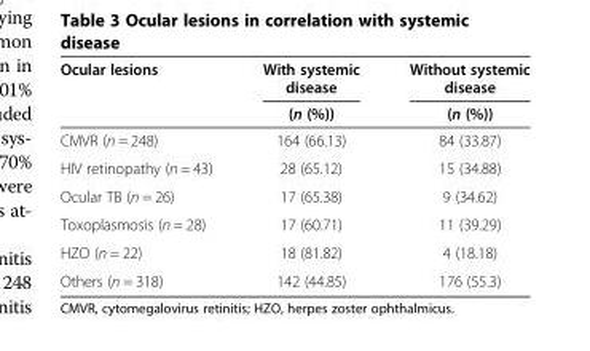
<table><thead><tr><td rowspan="2">Ocular lesions</td><td rowspan="2">With systemic disease (n (%))</td><td rowspan="2">Without systemic disease (n (%))</td></tr><tr></tr></thead><tbody><tr><td>CMVR (n = 248)</td><td>164 (66.13)</td><td>84 (33.87)</td></tr><tr><td>HIV retinopathy (n = 43)</td><td>28 (65.12)</td><td>15 (34.88)</td></tr><tr><td>Ocular TB (n = 26)</td><td>17 (65.38)</td><td>9 (34.62)</td></tr><tr><td>Toxoplasmosis (n = 28)</td><td>17 (60.71)</td><td>11 (39.29)</td></tr><tr><td>HZO (n = 22)</td><td>18 (81.82)</td><td>4 (18.18)</td></tr><tr><td>Others (n = 318)</td><td>142 (44.85)</td><td>176 (55.3)</td></tr></tbody></table>